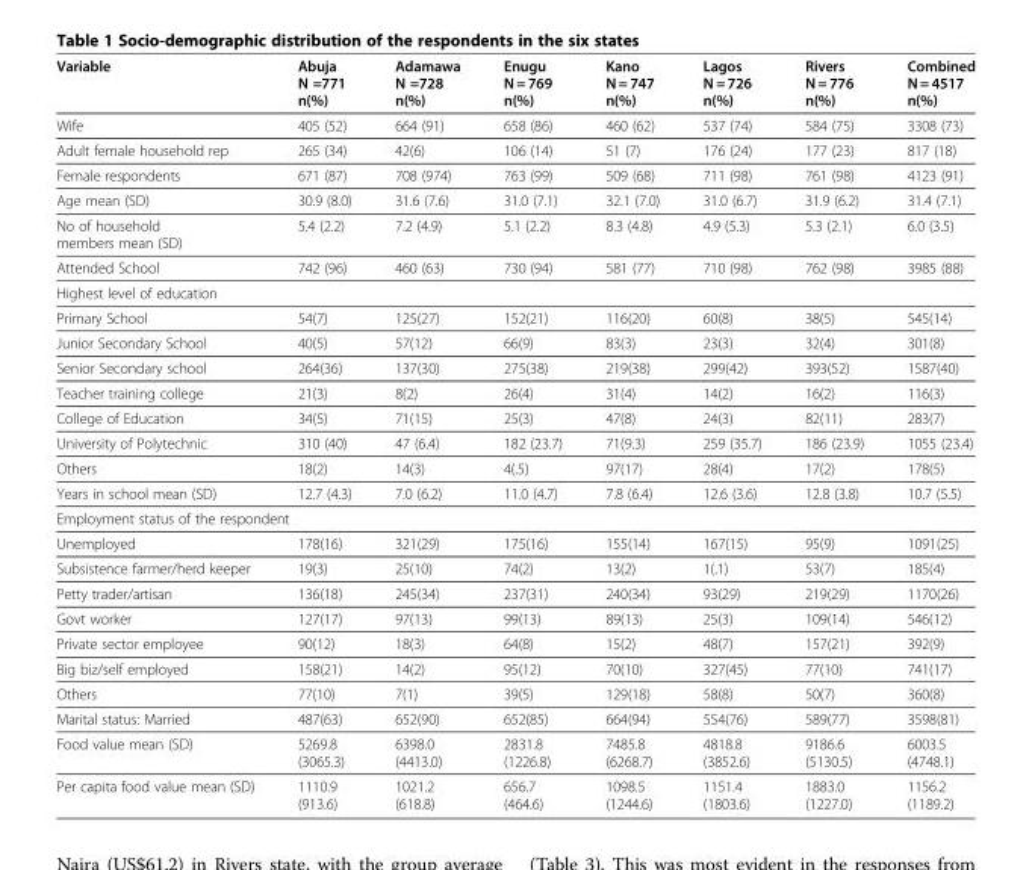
<table><thead><tr><td>Variable</td><td>Abuja N =771 n(%)</td><td>Adamawa N =728 n(%)</td><td>Enugu N = 769 n(%)</td><td>Kano N = 747 n(%)</td><td>Lagos N = 726 n(%)</td><td>Rivers N = 776 n(%)</td><td>Combined N = 4517 n(%)</td></tr></thead><tbody><tr><td>Wife</td><td>405 (52)</td><td>664 (91)</td><td>658 (86)</td><td>460 (62)</td><td>537 (74)</td><td>584 (75)</td><td>3308 (73)</td></tr><tr><td>Adult female household rep</td><td>265 (34)</td><td>42(6)</td><td>106 (14)</td><td>51 (7)</td><td>176 (24)</td><td>177 (23)</td><td>817 (18)</td></tr><tr><td>Female respondents</td><td>671 (87)</td><td>708 (974)</td><td>763 (99)</td><td>509 (68)</td><td>711 (98)</td><td>761 (98)</td><td>4123 (91)</td></tr><tr><td>Age mean (SD)</td><td>30.9 (8.0)</td><td>31.6 (7.6)</td><td>31.0 (7.1)</td><td>32.1 (7.0)</td><td>31.0 (6.7)</td><td>31.9 (6.2)</td><td>31.4 (7.1)</td></tr><tr><td>No of household members mean (SD)</td><td>5.4 (2.2)</td><td>7.2 (4.9)</td><td>5.1 (2.2)</td><td>8.3 (4.8)</td><td>4.9 (5.3)</td><td>5.3 (2.1)</td><td>6.0 (3.5)</td></tr><tr><td>Attended School</td><td>742 (96)</td><td>460 (63)</td><td>730 (94)</td><td>581 (77)</td><td>710 (98)</td><td>762 (98)</td><td>3985 (88)</td></tr><tr><td colspan="8">Highest level of education</td></tr><tr><td>Primary School</td><td>54(7)</td><td>125(27)</td><td>152(21)</td><td>116(20)</td><td>60(8)</td><td>38(5)</td><td>545(14)</td></tr><tr><td>Junior Secondary School</td><td>40(5)</td><td>57(12)</td><td>66(9)</td><td>83(3)</td><td>23(3)</td><td>32(4)</td><td>301(8)</td></tr><tr><td>Senior Secondary school</td><td>264(36)</td><td>137(30)</td><td>275(38)</td><td>219(38)</td><td>299(42)</td><td>393(52)</td><td>1587(40)</td></tr><tr><td>Teacher training college</td><td>21(3)</td><td>8(2)</td><td>26(4)</td><td>31(4)</td><td>14(2)</td><td>16(2)</td><td>116(3)</td></tr><tr><td>College of Education</td><td>34(5)</td><td>71(15)</td><td>25(3)</td><td>47(8)</td><td>24(3)</td><td>82(11)</td><td>283(7)</td></tr><tr><td>University of Polytechnic</td><td>310 (40)</td><td>47 (6.4)</td><td>182 (23.7)</td><td>71(9.3)</td><td>259 (35.7)</td><td>186 (23.9)</td><td>1055 (23.4)</td></tr><tr><td>Others</td><td>18(2)</td><td>14(3)</td><td>4(.5)</td><td>97(17)</td><td>28(4)</td><td>17(2)</td><td>178(5)</td></tr><tr><td>Years in school mean (SD)</td><td>12.7 (4.3)</td><td>7.0 (6.2)</td><td>11.0 (4.7)</td><td>7.8 (6.4)</td><td>12.6 (3.6)</td><td>12.8 (3.8)</td><td>10.7 (5.5)</td></tr><tr><td colspan="8">Employment status of the respondent</td></tr><tr><td>Unemployed</td><td>178(16)</td><td>321(29)</td><td>175(16)</td><td>155(14)</td><td>167(15)</td><td>95(9)</td><td>1091(25)</td></tr><tr><td>Subsistence farmer/herd keeper</td><td>19(3)</td><td>25(10)</td><td>74(2)</td><td>13(2)</td><td>1(.1)</td><td>53(7)</td><td>185(4)</td></tr><tr><td>Petty trader/artisan</td><td>136(18)</td><td>245(34)</td><td>237(31)</td><td>240(34)</td><td>93(29)</td><td>219(29)</td><td>1170(26)</td></tr><tr><td>Govt worker</td><td>127(17)</td><td>97(13)</td><td>99(13)</td><td>89(13)</td><td>25(3)</td><td>109(14)</td><td>546(12)</td></tr><tr><td>Private sector employee</td><td>90(12)</td><td>18(3)</td><td>64(8)</td><td>15(2)</td><td>48(7)</td><td>157(21)</td><td>392(9)</td></tr><tr><td>Big biz/self employed</td><td>158(21)</td><td>14(2)</td><td>95(12)</td><td>70(10)</td><td>327(45)</td><td>77(10)</td><td>741(17)</td></tr><tr><td>Others</td><td>77(10)</td><td>7(1)</td><td>39(5)</td><td>129(18)</td><td>58(8)</td><td>50(7)</td><td>360(8)</td></tr><tr><td>Marital status: Married</td><td>487(63)</td><td>652(90)</td><td>652(85)</td><td>664(94)</td><td>554(76)</td><td>589(77)</td><td>3598(81)</td></tr><tr><td>Food value mean (SD)</td><td>5269.8 (3065.3)</td><td>6398.0 (4413.0)</td><td>2831.8 (1226.8)</td><td>7485.8 (6268.7)</td><td>4818.8 (3852.6)</td><td>9186.6 (5130.5)</td><td>6003.5 (4748.1)</td></tr><tr><td>Per capita food value mean (SD)</td><td>1110.9 (913.6)</td><td>1021.2 (618.8)</td><td>656.7 (464.6)</td><td>1098.5 (1244.6)</td><td>1151.4 (1803.6)</td><td>1883.0 (1227.0)</td><td>1156.2 (1189.2)</td></tr></tbody></table>